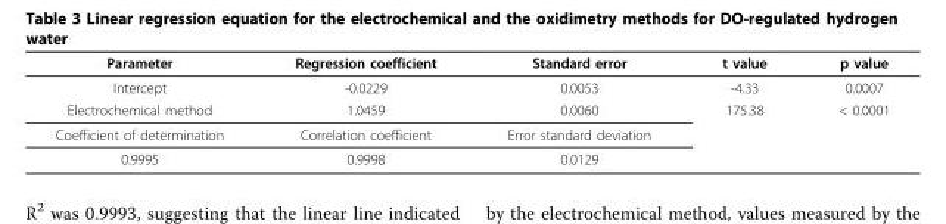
<table><thead><tr><td>Parameter</td><td>Regression coefficient</td><td>Standard error</td><td>t value</td><td>p value</td></tr></thead><tbody><tr><td>Intercept</td><td>-0.0229</td><td>0.0053</td><td>-4.33</td><td>0.0007</td></tr><tr><td>Electrochemical method</td><td>1.0459</td><td>0.0060</td><td>175.38</td><td>&lt; 0.0001</td></tr><tr><td>Coefficient of determination</td><td>Correlation coefficient</td><td>Error standard deviation</td><td></td><td></td></tr><tr><td>0.9995</td><td>0.9998</td><td>0.0129</td><td></td><td></td></tr></tbody></table>